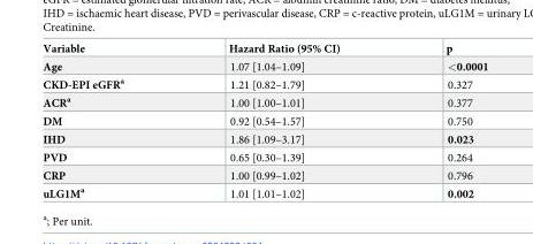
<table><thead><tr><td>Variable</td><td>Hazard Ratio (95% CI)</td><td>p</td></tr></thead><tbody><tr><td>Age</td><td>1.07 [1.04–1.09]</td><td>&lt;0.0001</td></tr><tr><td>CKD-EPI eGFR<sup>a</sup></td><td>1.21 [0.82–1.79]</td><td>0.327</td></tr><tr><td>ACR<sup>a</sup></td><td>1.00 [1.00–1.01]</td><td>0.377</td></tr><tr><td>DM</td><td>0.92 [0.54–1.57]</td><td>0.750</td></tr><tr><td>IHD</td><td>1.86 [1.09–3.17]</td><td>0.023</td></tr><tr><td>PVD</td><td>0.65 [0.30–1.39]</td><td>0.264</td></tr><tr><td>CRP</td><td>1.00 [0.99–1.02]</td><td>0.796</td></tr><tr><td>uLG1M<sup>a</sup></td><td>1.01 [1.01–1.02]</td><td>0.002</td></tr></tbody></table>